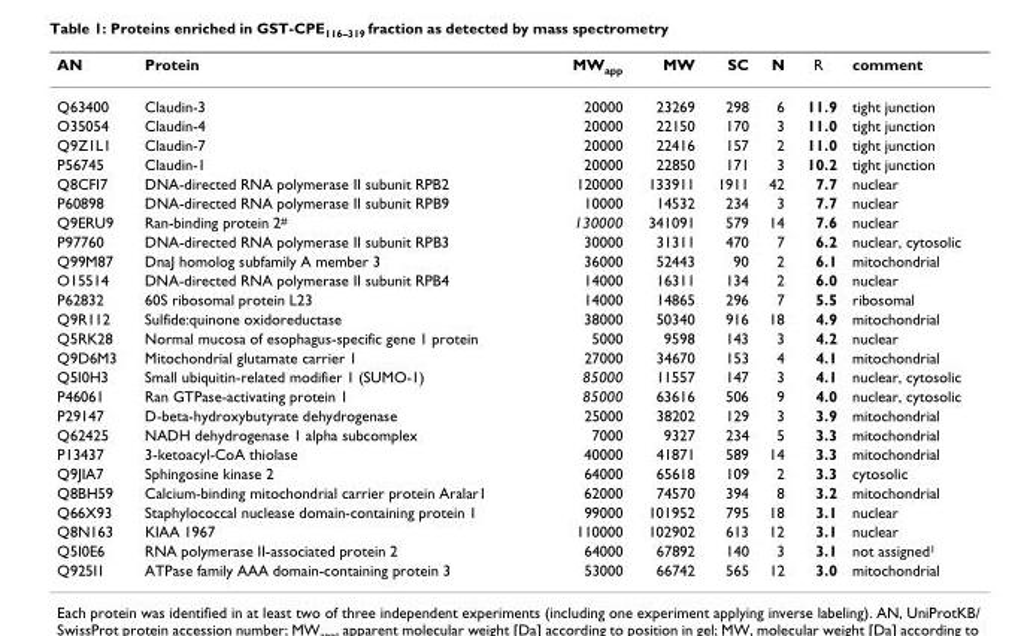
<table><thead><tr><td>AN</td><td>Protein</td><td>MW<sub>app</sub></td><td>MW</td><td>SC</td><td>N</td><td>R</td><td>comment</td></tr></thead><tbody><tr><td>Q63400</td><td>Claudin-3</td><td>20000</td><td>23269</td><td>298</td><td>6</td><td>11.9</td><td>tight junction</td></tr><tr><td>O35054</td><td>Claudin-4</td><td>20000</td><td>22150</td><td>170</td><td>3</td><td>11.0</td><td>tight junction</td></tr><tr><td>Q9Z1L1</td><td>Claudin-7</td><td>20000</td><td>22416</td><td>157</td><td>2</td><td>11.0</td><td>tight junction</td></tr><tr><td>P56745</td><td>Claudin-1</td><td>20000</td><td>22850</td><td>171</td><td>3</td><td>10.2</td><td>tight junction</td></tr><tr><td>Q8CFI7</td><td>DNA-directed RNA polymerase II subunit RPB2</td><td>120000</td><td>133911</td><td>1911</td><td>42</td><td>7.7</td><td>nuclear</td></tr><tr><td>P60898</td><td>DNA-directed RNA polymerase II subunit RPB9</td><td>10000</td><td>14532</td><td>234</td><td>3</td><td>7.7</td><td>nuclear</td></tr><tr><td>Q9ERU9</td><td>Ran-binding protein 2<sup>#</sup></td><td>130000</td><td>341091</td><td>579</td><td>14</td><td>7.6</td><td>nuclear</td></tr><tr><td>P97760</td><td>DNA-directed RNA polymerase II subunit RPB3</td><td>30000</td><td>31311</td><td>470</td><td>7</td><td>6.2</td><td>nuclear, cytosolic</td></tr><tr><td>Q99M87</td><td>DnaJ homolog subfamily A member 3</td><td>36000</td><td>52443</td><td>90</td><td>2</td><td>6.1</td><td>mitochondrial</td></tr><tr><td>O15514</td><td>DNA-directed RNA polymerase II subunit RPB4</td><td>14000</td><td>16311</td><td>134</td><td>2</td><td>6.0</td><td>nuclear</td></tr><tr><td>P62832</td><td>60S ribosomal protein L23</td><td>14000</td><td>14865</td><td>296</td><td>7</td><td>5.5</td><td>ribosomal</td></tr><tr><td>Q9R112</td><td>Sulfide:quinone oxidoreductase</td><td>38000</td><td>50340</td><td>916</td><td>18</td><td>4.9</td><td>mitochondrial</td></tr><tr><td>Q5RK28</td><td>Normal mucosa of esophagus-specific gene 1 protein</td><td>5000</td><td>9598</td><td>143</td><td>3</td><td>4.2</td><td>nuclear</td></tr><tr><td>Q9D6M3</td><td>Mitochondrial glutamate carrier 1</td><td>27000</td><td>34670</td><td>153</td><td>4</td><td>4.1</td><td>mitochondrial</td></tr><tr><td>Q5I0H3</td><td>Small ubiquitin-related modifier 1 (SUMO-1)</td><td>85000</td><td>11557</td><td>147</td><td>3</td><td>4.1</td><td>nuclear, cytosolic</td></tr><tr><td>P46061</td><td>Ran GTPase-activating protein 1</td><td>85000</td><td>63616</td><td>506</td><td>9</td><td>4.0</td><td>nuclear, cytosolic</td></tr><tr><td>P29147</td><td>D-beta-hydroxybutyrate dehydrogenase</td><td>25000</td><td>38202</td><td>129</td><td>3</td><td>3.9</td><td>mitochondrial</td></tr><tr><td>Q62425</td><td>NADH dehydrogenase 1 alpha subcomplex</td><td>7000</td><td>9327</td><td>234</td><td>5</td><td>3.3</td><td>mitochondrial</td></tr><tr><td>P13437</td><td>3-ketoacyl-CoA thiolase</td><td>40000</td><td>41871</td><td>589</td><td>14</td><td>3.3</td><td>mitochondrial</td></tr><tr><td>Q9JIA7</td><td>Sphingosine kinase 2</td><td>64000</td><td>65618</td><td>109</td><td>2</td><td>3.3</td><td>cytosolic</td></tr><tr><td>Q8BH59</td><td>Calcium-binding mitochondrial carrier protein Aralar1</td><td>62000</td><td>74570</td><td>394</td><td>8</td><td>3.2</td><td>mitochondrial</td></tr><tr><td>Q66X93</td><td>Staphylococcal nuclease domain-containing protein 1</td><td>99000</td><td>101952</td><td>795</td><td>18</td><td>3.1</td><td>nuclear</td></tr><tr><td>Q8N163</td><td>KIAA 1967</td><td>110000</td><td>102902</td><td>613</td><td>12</td><td>3.1</td><td>nuclear</td></tr><tr><td>Q5I0E6</td><td>RNA polymerase II-associated protein 2</td><td>64000</td><td>67892</td><td>140</td><td>3</td><td>3.1</td><td>not assigned<sup>1</sup></td></tr><tr><td>Q925I1</td><td>ATPase family AAA domain-containing protein 3</td><td>53000</td><td>66742</td><td>565</td><td>12</td><td>3.0</td><td>mitochondrial</td></tr></tbody></table>